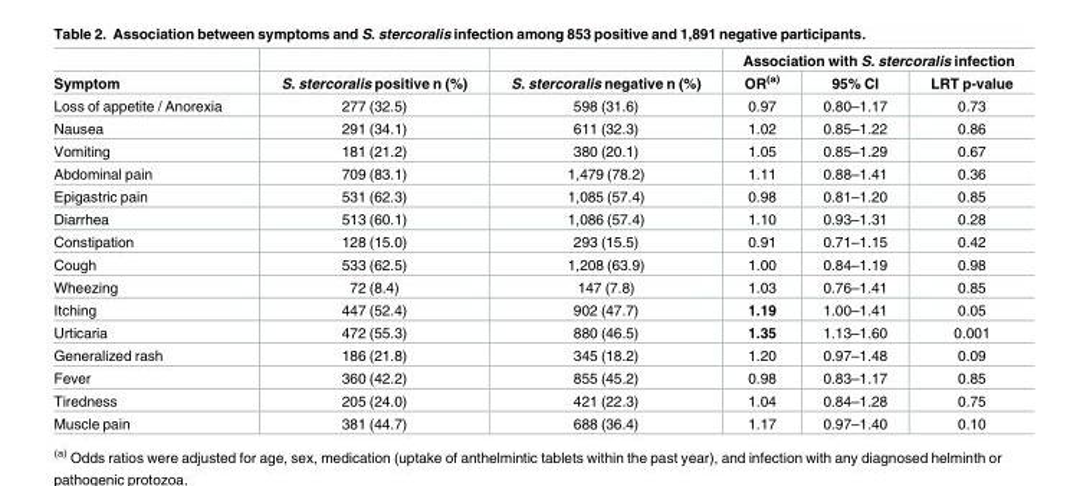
<table><thead><tr><td rowspan="2">Symptom</td><td rowspan="2">S. stercoralis positive n (%)</td><td rowspan="2">S. stercoralis negative n (%)</td><td colspan="3">Association with S. stercoralis infection</td></tr><tr><td>OR<sup>(a)</sup></td><td>95% CI</td><td>LRT p-value</td></tr></thead><tbody><tr><td>Loss of appetite / Anorexia</td><td>277 (32.5)</td><td>598 (31.6)</td><td>0.97</td><td>0.80–1.17</td><td>0.73</td></tr><tr><td>Nausea</td><td>291 (34.1)</td><td>611 (32.3)</td><td>1.02</td><td>0.85–1.22</td><td>0.86</td></tr><tr><td>Vomiting</td><td>181 (21.2)</td><td>380 (20.1)</td><td>1.05</td><td>0.85–1.29</td><td>0.67</td></tr><tr><td>Abdominal pain</td><td>709 (83.1)</td><td>1,479 (78.2)</td><td>1.11</td><td>0.88–1.41</td><td>0.36</td></tr><tr><td>Epigastric pain</td><td>531 (62.3)</td><td>1,085 (57.4)</td><td>0.98</td><td>0.81–1.20</td><td>0.85</td></tr><tr><td>Diarrhea</td><td>513 (60.1)</td><td>1,086 (57.4)</td><td>1.10</td><td>0.93–1.31</td><td>0.28</td></tr><tr><td>Constipation</td><td>128 (15.0)</td><td>293 (15.5)</td><td>0.91</td><td>0.71–1.15</td><td>0.42</td></tr><tr><td>Cough</td><td>533 (62.5)</td><td>1,208 (63.9)</td><td>1.00</td><td>0.84–1.19</td><td>0.98</td></tr><tr><td>Wheezing</td><td>72 (8.4)</td><td>147 (7.8)</td><td>1.03</td><td>0.76–1.41</td><td>0.85</td></tr><tr><td>Itching</td><td>447 (52.4)</td><td>902 (47.7)</td><td>1.19</td><td>1.00–1.41</td><td>0.05</td></tr><tr><td>Urticaria</td><td>472 (55.3)</td><td>880 (46.5)</td><td>1.35</td><td>1.13–1.60</td><td>0.001</td></tr><tr><td>Generalized rash</td><td>186 (21.8)</td><td>345 (18.2)</td><td>1.20</td><td>0.97–1.48</td><td>0.09</td></tr><tr><td>Fever</td><td>360 (42.2)</td><td>855 (45.2)</td><td>0.98</td><td>0.83–1.17</td><td>0.85</td></tr><tr><td>Tiredness</td><td>205 (24.0)</td><td>421 (22.3)</td><td>1.04</td><td>0.84–1.28</td><td>0.75</td></tr><tr><td>Muscle pain</td><td>381 (44.7)</td><td>688 (36.4)</td><td>1.17</td><td>0.97–1.40</td><td>0.10</td></tr></tbody></table>